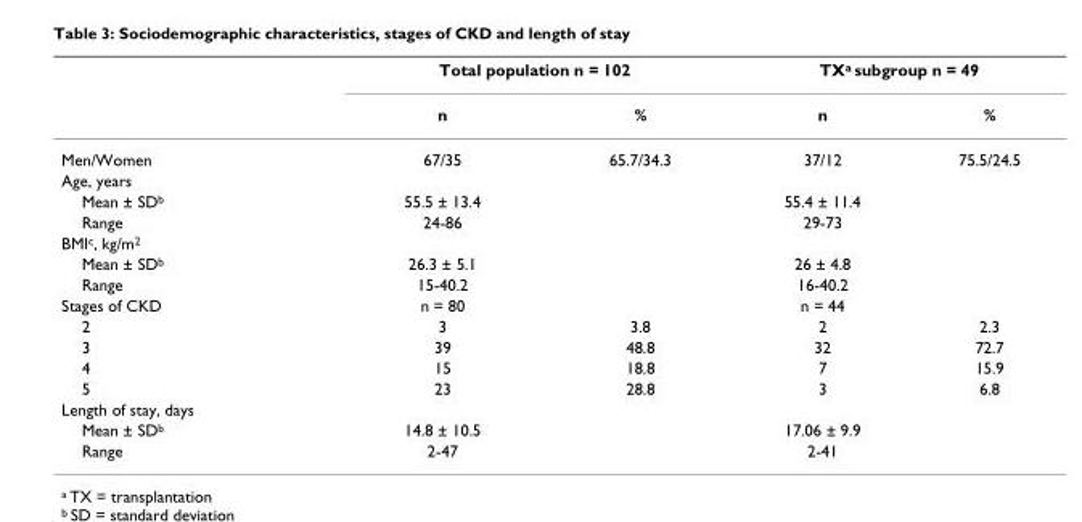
<table><thead><tr><td rowspan="2"></td><td colspan="2">Total population n = 102</td><td colspan="2">TXa subgroup n = 49</td></tr><tr><td>n</td><td>%</td><td>n</td><td>%</td></tr></thead><tbody><tr><td>Men/Women</td><td>67/35</td><td>65.7/34.3</td><td>37/12</td><td>75.5/24.5</td></tr><tr><td colspan="5">Age, years</td></tr><tr><td>Mean ± SD<sup>b</sup></td><td>55.5 ± 13.4</td><td></td><td>55.4 ± 11.4</td><td></td></tr><tr><td>Range</td><td>24-86</td><td></td><td>29-73</td><td></td></tr><tr><td colspan="5">BMI<sup>c</sup>, kg/m<sup>2</sup></td></tr><tr><td>Mean ± SD<sup>b</sup></td><td>26.3 ± 5.1</td><td></td><td>26 ± 4.8</td><td></td></tr><tr><td>Range</td><td>15-40.2</td><td></td><td>16-40.2</td><td></td></tr><tr><td>Stages of CKD</td><td>n = 80</td><td></td><td>n = 44</td><td></td></tr><tr><td>2</td><td>3</td><td>3.8</td><td>2</td><td>2.3</td></tr><tr><td>3</td><td>39</td><td>48.8</td><td>32</td><td>72.7</td></tr><tr><td>4</td><td>15</td><td>18.8</td><td>7</td><td>15.9</td></tr><tr><td>5</td><td>23</td><td>28.8</td><td>3</td><td>6.8</td></tr><tr><td colspan="5">Length of stay, days</td></tr><tr><td>Mean ± SD<sup>b</sup></td><td>14.8 ± 10.5</td><td></td><td>17.06 ± 9.9</td><td></td></tr><tr><td>Range</td><td>2-47</td><td></td><td>2-41</td><td></td></tr></tbody></table>